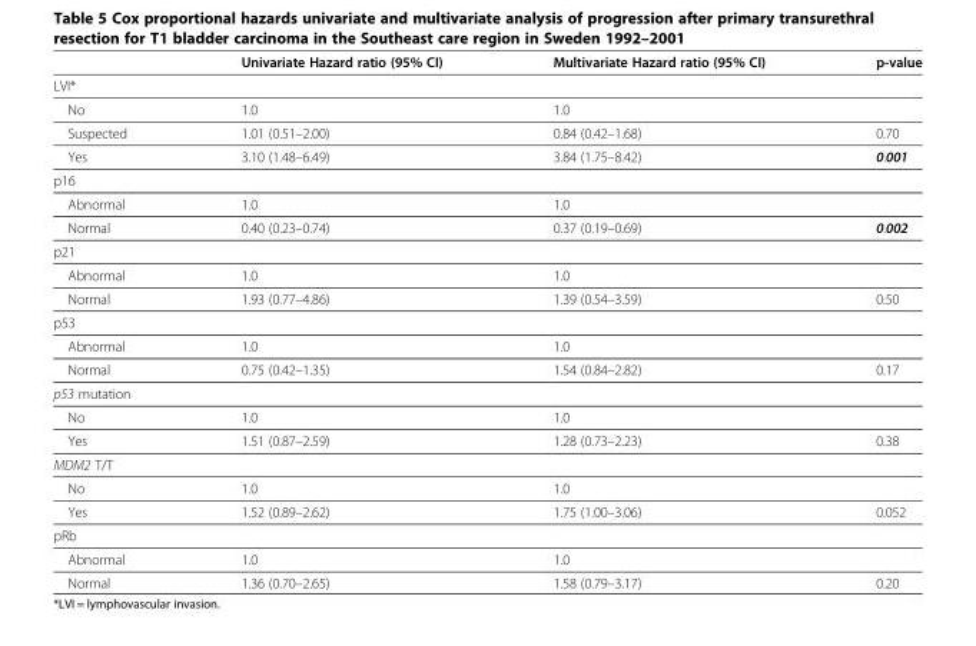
<table><thead><tr><td></td><td>Univariate Hazard ratio (95% CI)</td><td>Multivariate Hazard ratio (95% CI)</td><td>p-value</td></tr></thead><tbody><tr><td colspan="4">LVI*</td></tr><tr><td>No</td><td>1.0</td><td>1.0</td><td></td></tr><tr><td>Suspected</td><td>1.01 (0.51–2.00)</td><td>0.84 (0.42–1.68)</td><td>0.70</td></tr><tr><td>Yes</td><td>3.10 (1.48–6.49)</td><td>3.84 (1.75–8.42)</td><td>0.001</td></tr><tr><td colspan="4">p16</td></tr><tr><td>Abnormal</td><td>1.0</td><td>1.0</td><td></td></tr><tr><td>Normal</td><td>0.40 (0.23–0.74)</td><td>0.37 (0.19–0.69)</td><td>0.002</td></tr><tr><td colspan="4">p21</td></tr><tr><td>Abnormal</td><td>1.0</td><td>1.0</td><td></td></tr><tr><td>Normal</td><td>1.93 (0.77–4.86)</td><td>1.39 (0.54–3.59)</td><td>0.50</td></tr><tr><td colspan="4">p53</td></tr><tr><td>Abnormal</td><td>1.0</td><td>1.0</td><td></td></tr><tr><td>Normal</td><td>0.75 (0.42–1.35)</td><td>1.54 (0.84–2.82)</td><td>0.17</td></tr><tr><td colspan="4">p53 mutation</td></tr><tr><td>No</td><td>1.0</td><td>1.0</td><td></td></tr><tr><td>Yes</td><td>1.51 (0.87–2.59)</td><td>1.28 (0.73–2.23)</td><td>0.38</td></tr><tr><td colspan="4">MDM2 T/T</td></tr><tr><td>No</td><td>1.0</td><td>1.0</td><td></td></tr><tr><td>Yes</td><td>1.52 (0.89–2.62)</td><td>1.75 (1.00–3.06)</td><td>0.052</td></tr><tr><td colspan="4">pRb</td></tr><tr><td>Abnormal</td><td>1.0</td><td>1.0</td><td></td></tr><tr><td>Normal</td><td>1.36 (0.70–2.65)</td><td>1.58 (0.79–3.17)</td><td>0.20</td></tr></tbody></table>